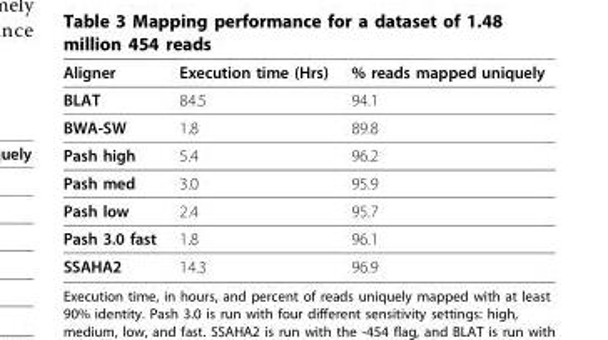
<table><thead><tr><td>Aligner</td><td>Execution time (Hrs)</td><td>% reads mapped uniquely</td></tr></thead><tbody><tr><td>BLAT</td><td>84.5</td><td>94.1</td></tr><tr><td>BWA-SW</td><td>1.8</td><td>89.8</td></tr><tr><td>Pash high</td><td>5.4</td><td>96.2</td></tr><tr><td>Pash med</td><td>3.0</td><td>95.9</td></tr><tr><td>Pash low</td><td>2.4</td><td>95.7</td></tr><tr><td>Pash 3.0 fast</td><td>1.8</td><td>96.1</td></tr><tr><td>SSAHA2</td><td>14.3</td><td>96.9</td></tr></tbody></table>